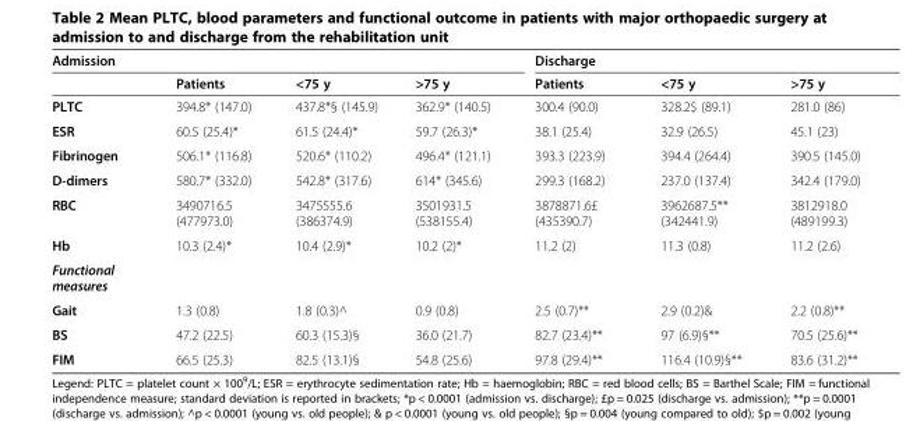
<table><thead><tr><td colspan="4">Admission</td><td colspan="3">Discharge</td></tr><tr><td></td><td>Patients</td><td>&lt;75 y</td><td>&gt;75 y</td><td>Patients</td><td>&lt;75 y</td><td>&gt;75 y</td></tr></thead><tbody><tr><td>PLTC</td><td>394.8* (147.0)</td><td>437.8*§ (145.9)</td><td>362.9* (140.5)</td><td>300.4 (90.0)</td><td>328.2$ (89.1)</td><td>281.0 (86)</td></tr><tr><td>ESR</td><td>60.5 (25.4)*</td><td>61.5 (24.4)*</td><td>59.7 (26.3)*</td><td>38.1 (25.4)</td><td>32.9 (26.5)</td><td>45.1 (23)</td></tr><tr><td>Fibrinogen</td><td>506.1* (116.8)</td><td>520.6* (110.2)</td><td>496.4* (121.1)</td><td>393.3 (223.9)</td><td>394.4 (264.4)</td><td>390.5 (145.0)</td></tr><tr><td>D-dimers</td><td>580.7* (332.0)</td><td>542.8* (317.6)</td><td>614* (345.6)</td><td>299.3 (168.2)</td><td>237.0 (137.4)</td><td>342.4 (179.0)</td></tr><tr><td>RBC</td><td>3490716.5 (477973.0)</td><td>3475555.6 (386374.9)</td><td>3501931.5 (538155.4)</td><td>3878871.6£ (435390.7)</td><td>3962687.5** (342441.9)</td><td>3812918.0 (489199.3)</td></tr><tr><td>Hb</td><td>10.3 (2.4)*</td><td>10.4 (2.9)*</td><td>10.2 (2)*</td><td>11.2 (2)</td><td>11.3 (0.8)</td><td>11.2 (2.6)</td></tr><tr><td colspan="7">Functional measures</td></tr><tr><td>Gait</td><td>1.3 (0.8)</td><td>1.8 (0.3)^</td><td>0.9 (0.8)</td><td>2.5 (0.7)**</td><td>2.9 (0.2)&amp;</td><td>2.2 (0.8)**</td></tr><tr><td>BS</td><td>47.2 (22.5)</td><td>60.3 (15.3)§</td><td>36.0 (21.7)</td><td>82.7 (23.4)**</td><td>97 (6.9)§**</td><td>70.5 (25.6)**</td></tr><tr><td>FIM</td><td>66.5 (25.3)</td><td>82.5 (13.1)§</td><td>54.8 (25.6)</td><td>97.8 (29.4)**</td><td>116.4 (10.9)§**</td><td>83.6 (31.2)**</td></tr></tbody></table>